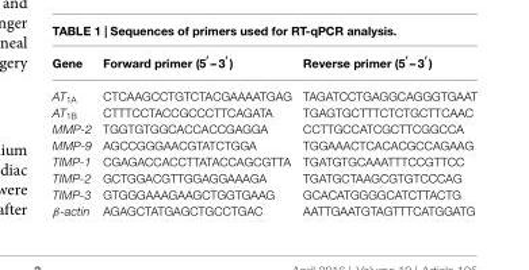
<table><thead><tr><td>Gene</td><td>Forward primer (5 ′ – 3 ′ )</td><td>Reverse primer (5 ′– 3 ′ )</td></tr></thead><tbody><tr><td>AT<sub>1A</sub></td><td>CTCAAGCCTGTCTACGAAAATGAG</td><td>TAGATCCTGAGGCAGGGTGAAT</td></tr><tr><td>AT<sub>1B</sub></td><td>CTTTCCTACCGCCCTTCAGATA</td><td>TGAGTGCTTTCTCTGCTTCAAC</td></tr><tr><td>MMP-2</td><td>TGGTGTGGCACCACCGAGGA</td><td>CCTTGCCATCGCTTCGGCCA</td></tr><tr><td>MMP-9</td><td>AGCCGGGAACGTATCTGGA</td><td>TGGAAACTCACACGCCAGAAG</td></tr><tr><td>TIMP-1</td><td>CGAGACCACCTTATACCAGCGTTA</td><td>TGATGTGCAAATTTCCGTTCC</td></tr><tr><td>TIMP-2</td><td>GCTGGACGTTGGAGGAAAGA</td><td>TGATGCTAAGCGTGTCCCAG</td></tr><tr><td>TIMP-3</td><td>GTGGGAAAGAAGCTGGTGAAG</td><td>GCACATGGGGCATCTTACTG</td></tr><tr><td>β-actin</td><td>AGAGCTATGAGCTGCCTGAC</td><td>AATTGAATGTAGTTTCATGGATG</td></tr></tbody></table>